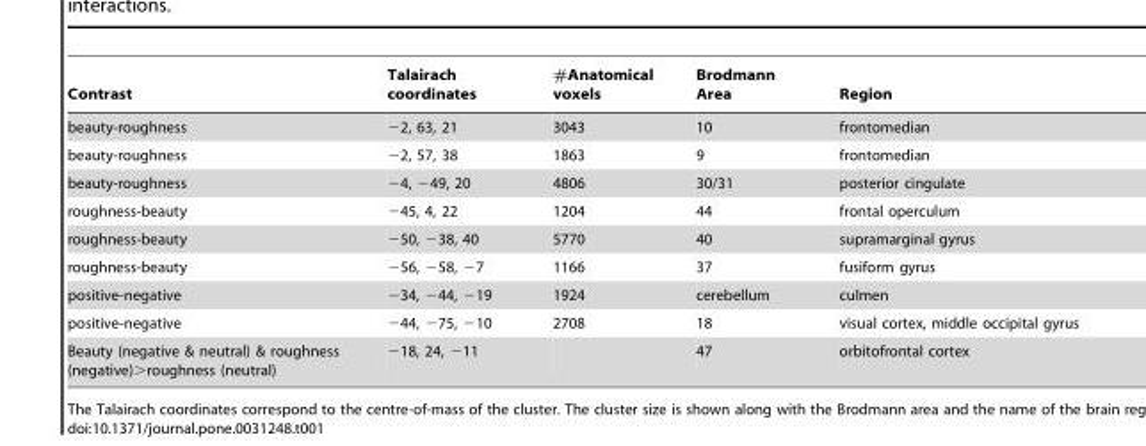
<table><thead><tr><td>Contrast</td><td>Talairach coordinates</td><td>#Anatomical voxels</td><td>Brodmann Area</td><td>Region</td></tr></thead><tbody><tr><td>beauty-roughness</td><td>−2, 63, 21</td><td>3043</td><td>10</td><td>frontomedian</td></tr><tr><td>beauty-roughness</td><td>−2, 57, 38</td><td>1863</td><td>9</td><td>frontomedian</td></tr><tr><td>beauty-roughness</td><td>−4, −49, 20</td><td>4806</td><td>30/31</td><td>posterior cingulate</td></tr><tr><td>roughness-beauty</td><td>−45, 4, 22</td><td>1204</td><td>44</td><td>frontal operculum</td></tr><tr><td>roughness-beauty</td><td>−50, −38, 40</td><td>5770</td><td>40</td><td>supramarginal gyrus</td></tr><tr><td>roughness-beauty</td><td>−56, −58, −7</td><td>1166</td><td>37</td><td>fusiform gyrus</td></tr><tr><td>positive-negative</td><td>−34, −44, −19</td><td>1924</td><td>cerebellum</td><td>culmen</td></tr><tr><td>positive-negative</td><td>−44, −75, −10</td><td>2708</td><td>18</td><td>visual cortex, middle occipital gyrus</td></tr><tr><td>Beauty (negative &amp; neutral) &amp; roughness (negative)&gt;roughness (neutral)</td><td>−18, 24, −11</td><td></td><td>47</td><td>orbitofrontal cortex</td></tr></tbody></table>